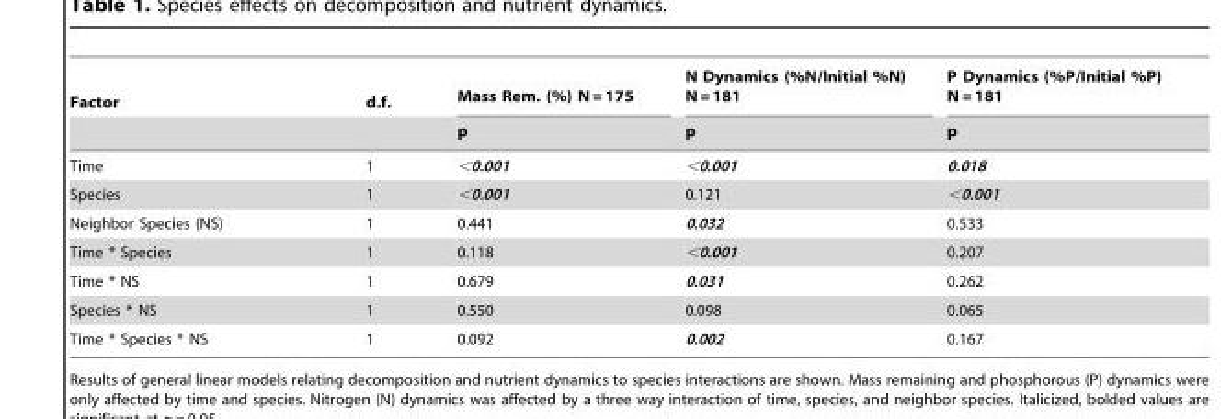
<table><thead><tr><td rowspan="2">Factor</td><td rowspan="2">d.f.</td><td rowspan="2">Mass Rem. (%) N = 175 p</td><td rowspan="2">N Dynamics (%N/Initial %N) N = 181 p</td><td rowspan="2">P Dynamics (%P/Initial %P) N = 181 p</td></tr><tr></tr></thead><tbody><tr><td>Time</td><td>1</td><td>&lt;0.001</td><td>&lt;0.001</td><td>0.018</td></tr><tr><td>Species</td><td>1</td><td>&lt;0.001</td><td>0.121</td><td>&lt;0.001</td></tr><tr><td>Neighbor Species (NS)</td><td>1</td><td>0.441</td><td>0.032</td><td>0.533</td></tr><tr><td>Time * Species</td><td>1</td><td>0.118</td><td>&lt;0.001</td><td>0.207</td></tr><tr><td>Time * NS</td><td>1</td><td>0.679</td><td>0.031</td><td>0.262</td></tr><tr><td>Species * NS</td><td>1</td><td>0.550</td><td>0.098</td><td>0.065</td></tr><tr><td>Time * Species * NS</td><td>1</td><td>0.092</td><td>0.002</td><td>0.167</td></tr></tbody></table>